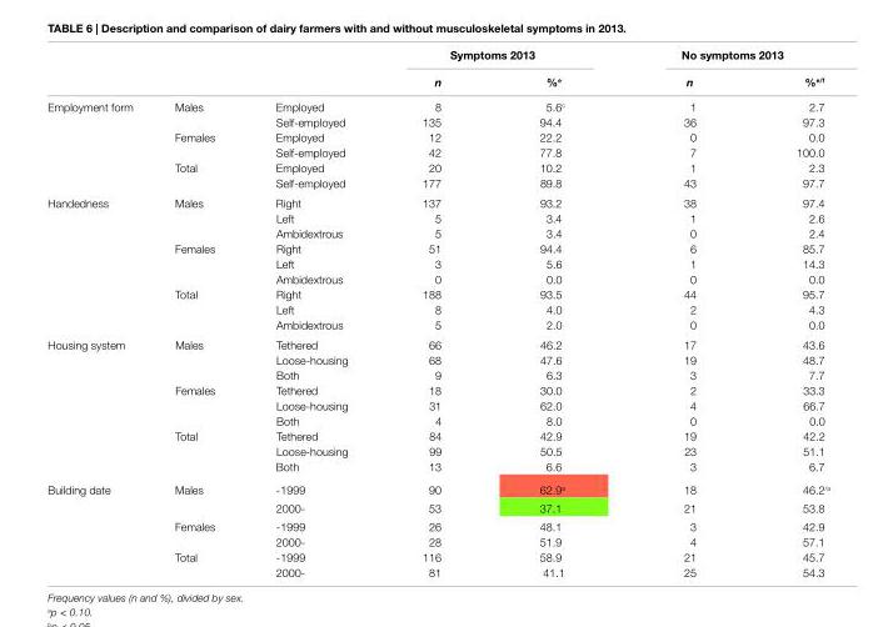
<table><thead><tr><td rowspan="2"></td><td rowspan="2"></td><td rowspan="2"></td><td colspan="2">symptoms 2013</td><td colspan="2">no symptoms 2013</td></tr><tr><td>n</td><td>%<sup>e</sup></td><td>n</td><td>%<sup>e/f</sup></td></tr></thead><tbody><tr><td rowspan="6">Employment form</td><td>Males</td><td>Employed</td><td>8</td><td>5.6<sup>c</sup></td><td>1</td><td>2.7</td></tr><tr><td></td><td>Self-employed</td><td>135</td><td>94.4</td><td>36</td><td>97.3</td></tr><tr><td>Females</td><td>Employed</td><td>12</td><td>22.2</td><td>0</td><td>0.0</td></tr><tr><td></td><td>Self-employed</td><td>42</td><td>77.8</td><td>7</td><td>100.0</td></tr><tr><td>Total</td><td>Employed</td><td>20</td><td>10.2</td><td>1</td><td>2.3</td></tr><tr><td></td><td>Self-employed</td><td>177</td><td>89.8</td><td>43</td><td>97.7</td></tr><tr><td rowspan="9">Handedness</td><td>Males</td><td>Right</td><td>137</td><td>93.2</td><td>38</td><td>97.4</td></tr><tr><td></td><td>Left</td><td>5</td><td>3.4</td><td>1</td><td>2.6</td></tr><tr><td></td><td>Ambidextrous</td><td>5</td><td>3.4</td><td>0</td><td>2.4</td></tr><tr><td>Females</td><td>Right</td><td>51</td><td>94.4</td><td>6</td><td>85.7</td></tr><tr><td></td><td>Left</td><td>3</td><td>5.6</td><td>1</td><td>14.3</td></tr><tr><td></td><td>Ambidextrous</td><td>0</td><td>0.0</td><td>0</td><td>0.0</td></tr><tr><td>Total</td><td>Right</td><td>188</td><td>93.5</td><td>44</td><td>95.7</td></tr><tr><td></td><td>Left</td><td>8</td><td>4.0</td><td>2</td><td>4.3</td></tr><tr><td></td><td>Ambidextrous</td><td>5</td><td>2.0</td><td>0</td><td>0.0</td></tr><tr><td rowspan="9">Housing system</td><td>Males</td><td>Tethered</td><td>66</td><td>46.2</td><td>17</td><td>43.6</td></tr><tr><td></td><td>Loose-housing</td><td>68</td><td>47.6</td><td>19</td><td>48.7</td></tr><tr><td></td><td>Both</td><td>9</td><td>6.3</td><td>3</td><td>7.7</td></tr><tr><td>Females</td><td>Tethered</td><td>18</td><td>30.0</td><td>2</td><td>33.3</td></tr><tr><td></td><td>Loose-housing</td><td>31</td><td>62.0</td><td>4</td><td>66.7</td></tr><tr><td></td><td>Both</td><td>4</td><td>8.0</td><td>0</td><td>0.0</td></tr><tr><td>Total</td><td>Tethered</td><td>84</td><td>42.9</td><td>19</td><td>42.2</td></tr><tr><td></td><td>Loose-housing</td><td>99</td><td>50.5</td><td>23</td><td>51.1</td></tr><tr><td></td><td>Both</td><td>13</td><td>6.6</td><td>3</td><td>6.7</td></tr><tr><td rowspan="6">Building date</td><td>Males</td><td>-1999</td><td>90</td><td>62.9<sup>a</sup></td><td>18</td><td>46.2<sup>/a</sup></td></tr><tr><td></td><td>2000-</td><td>53</td><td>37.1</td><td>21</td><td>53.8</td></tr><tr><td>Females</td><td>-1999</td><td>26</td><td>48.1</td><td>3</td><td>42.9</td></tr><tr><td></td><td>2000-</td><td>28</td><td>51.9</td><td>4</td><td>57.1</td></tr><tr><td>Total</td><td>-1999</td><td>116</td><td>58.9</td><td>21</td><td>45.7</td></tr><tr><td></td><td>2000-</td><td>81</td><td>41.1</td><td>25</td><td>54.3</td></tr></tbody></table>